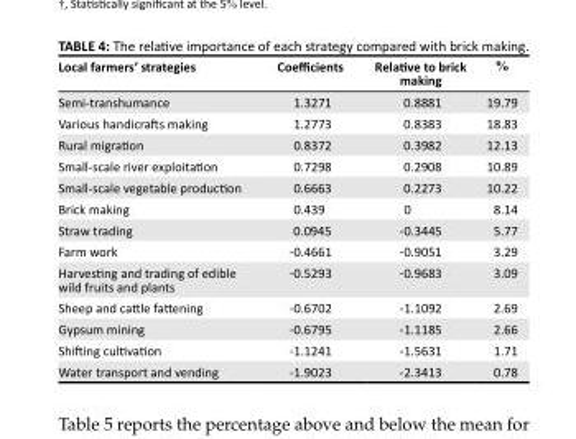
<table><thead><tr><td>Local farmers’ strategies</td><td>Coefficients</td><td>Relative to brick making</td><td>%</td></tr></thead><tbody><tr><td>Semi-transhumance</td><td>1.3271</td><td>0.8881</td><td>19.79</td></tr><tr><td>Various handicrafts making</td><td>1.2773</td><td>0.8383</td><td>18.83</td></tr><tr><td>Rural migration</td><td>0.8372</td><td>0.3982</td><td>12.13</td></tr><tr><td>Small-scale river exploitation</td><td>0.7298</td><td>0.2908</td><td>10.89</td></tr><tr><td>Small-scale vegetable production</td><td>0.6663</td><td>0.2273</td><td>10.22</td></tr><tr><td>Brick making</td><td>0.439</td><td>0</td><td>8.14</td></tr><tr><td>Straw trading</td><td>0.0945</td><td>-0.3445</td><td>5.77</td></tr><tr><td>Farm work</td><td>-0.4661</td><td>-0.9051</td><td>3.29</td></tr><tr><td>Harvesting and trading of edible wild fruits and plants</td><td>-0.5293</td><td>-0.9683</td><td>3.09</td></tr><tr><td>Sheep and cattle fattening</td><td>-0.6702</td><td>-1.1092</td><td>2.69</td></tr><tr><td>Gypsum mining</td><td>-0.6795</td><td>-1.1185</td><td>2.66</td></tr><tr><td>Shifting cultivation</td><td>-1.1241</td><td>-1.5631</td><td>1.71</td></tr><tr><td>Water transport and vending</td><td>-1.9023</td><td>-2.3413</td><td>0.78</td></tr></tbody></table>